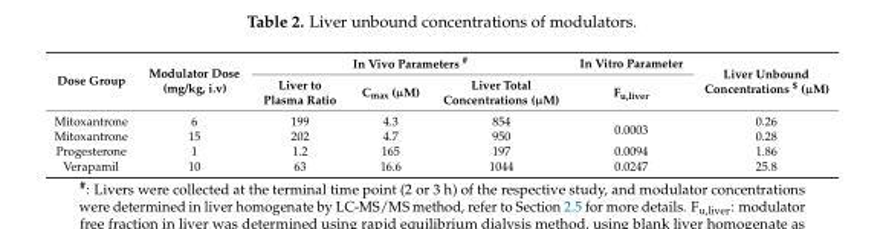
<table><thead><tr><td rowspan="2">Dose Group</td><td rowspan="2">Modulator Dose (mg/kg, i.v)</td><td colspan="3">In Vivo Parameters <sup>#</sup></td><td rowspan="2">In Vitro Parameter F<sub>u,liver</sub></td><td rowspan="2">Liver Unbound Concentrations <sup>$</sup> (µM)</td></tr><tr><td>Liver to Plasma Ratio</td><td>C<sub>max</sub> (µM)</td><td>Liver Total Concentrations (µM)</td></tr></thead><tbody><tr><td>Mitoxantrone</td><td>6</td><td>199</td><td>4.3</td><td>854</td><td rowspan="2">0.0003</td><td>0.26</td></tr><tr><td>Mitoxantrone</td><td>15</td><td>202</td><td>4.7</td><td>950</td><td>0.28</td></tr><tr><td>Progesterone</td><td>1</td><td>1.2</td><td>165</td><td>197</td><td>0.0094</td><td>1.86</td></tr><tr><td>Verapamil</td><td>10</td><td>63</td><td>16.6</td><td>1044</td><td>0.0247</td><td>25.8</td></tr></tbody></table>